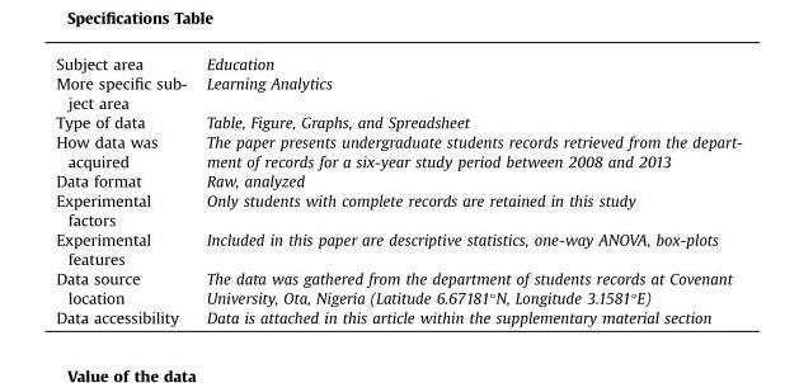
<table><tbody><tr><td>Subject area</td><td>Education</td></tr><tr><td>More specific sub- ject area</td><td>Learning Analytics</td></tr><tr><td>Type of data</td><td>Table, Figure, Graphs, and Spreadsheet</td></tr><tr><td>How data was acquired</td><td>The paper presents undergraduate students records retrieved from the depart- ment of records for a six-year study period between 2008 and 2013</td></tr><tr><td>Data format</td><td>Raw, analyzed</td></tr><tr><td>Experimental factors</td><td>Only students with complete records are retained in this study</td></tr><tr><td>Experimental features</td><td>Included in this paper are descriptive statistics, one-way ANOVA, box-plots</td></tr><tr><td>Data source location</td><td>The data was gathered from the department of students records at Covenant University, Ota, Nigeria (Latitude 6.67181°N, Longitude 3.1581°E)</td></tr><tr><td>Data accessibility</td><td>Data is attached in this article within the supplementary material section</td></tr></tbody></table>